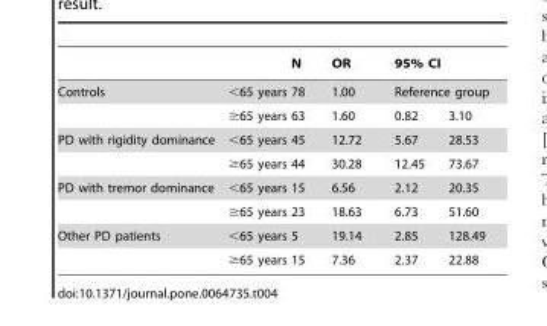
<table><thead><tr><td rowspan="3">Controls</td><td rowspan="3">&lt;65 years ≥65 years</td><td rowspan="3">N 78 63</td><td rowspan="3">OR 1.00 1.60</td><td rowspan="2" colspan="2">95% CI Reference group</td></tr><tr></tr><tr><td>0.82</td><td>3.10</td></tr></thead><tbody><tr><td rowspan="2">PD with rigidity dominance</td><td>&lt;65 years</td><td>45</td><td>12.72</td><td>5.67</td><td>28.53</td></tr><tr><td>≥65 years</td><td>44</td><td>30.28</td><td>12.45</td><td>73.67</td></tr><tr><td rowspan="2">PD with tremor dominance</td><td>&lt;65 years</td><td>15</td><td>6.56</td><td>2.12</td><td>20.35</td></tr><tr><td>≥65 years</td><td>23</td><td>18.63</td><td>6.73</td><td>51.60</td></tr><tr><td rowspan="2">Other PD patients</td><td>&lt;65 years</td><td>5</td><td>19.14</td><td>2.85</td><td>128.49</td></tr><tr><td>≥65 years</td><td>15</td><td>7.36</td><td>2.37</td><td>22.88</td></tr></tbody></table>